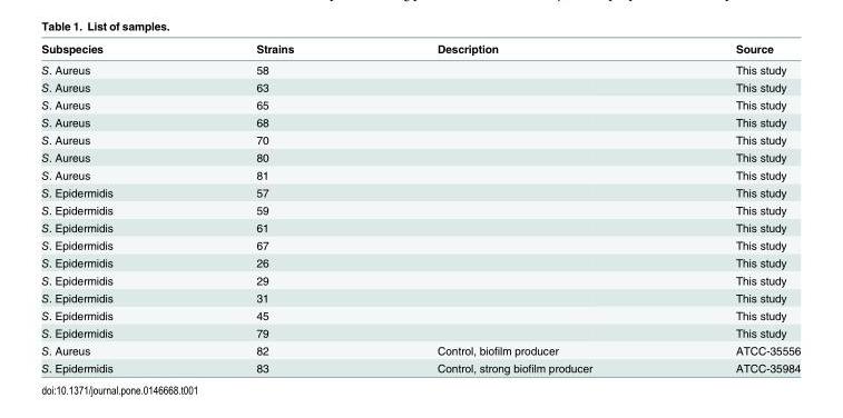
<table><thead><tr><td>Subspecies</td><td>Strains</td><td>Description</td><td>Source</td></tr></thead><tbody><tr><td>S. Aureus</td><td>58</td><td></td><td>This study</td></tr><tr><td>S. Aureus</td><td>63</td><td></td><td>This study</td></tr><tr><td>S. Aureus</td><td>65</td><td></td><td>This study</td></tr><tr><td>S. Aureus</td><td>68</td><td></td><td>This study</td></tr><tr><td>S. Aureus</td><td>70</td><td></td><td>This study</td></tr><tr><td>S. Aureus</td><td>80</td><td></td><td>This study</td></tr><tr><td>S. Aureus</td><td>81</td><td></td><td>This study</td></tr><tr><td>S. Epidermidis</td><td>57</td><td></td><td>This study</td></tr><tr><td>S. Epidermidis</td><td>59</td><td></td><td>This study</td></tr><tr><td>S. Epidermidis</td><td>61</td><td></td><td>This study</td></tr><tr><td>S. Epidermidis</td><td>67</td><td></td><td>This study</td></tr><tr><td>S. Epidermidis</td><td>26</td><td></td><td>This study</td></tr><tr><td>S. Epidermidis</td><td>29</td><td></td><td>This study</td></tr><tr><td>S. Epidermidis</td><td>31</td><td></td><td>This study</td></tr><tr><td>S. Epidermidis</td><td>45</td><td></td><td>This study</td></tr><tr><td>S. Epidermidis</td><td>79</td><td></td><td>This study</td></tr><tr><td>S. Aureus</td><td>82</td><td>Control, biofilm producer</td><td>ATCC-35556</td></tr><tr><td>S. Epidermidis</td><td>83</td><td>Control, strong biofilm producer</td><td>ATCC-35984</td></tr></tbody></table>